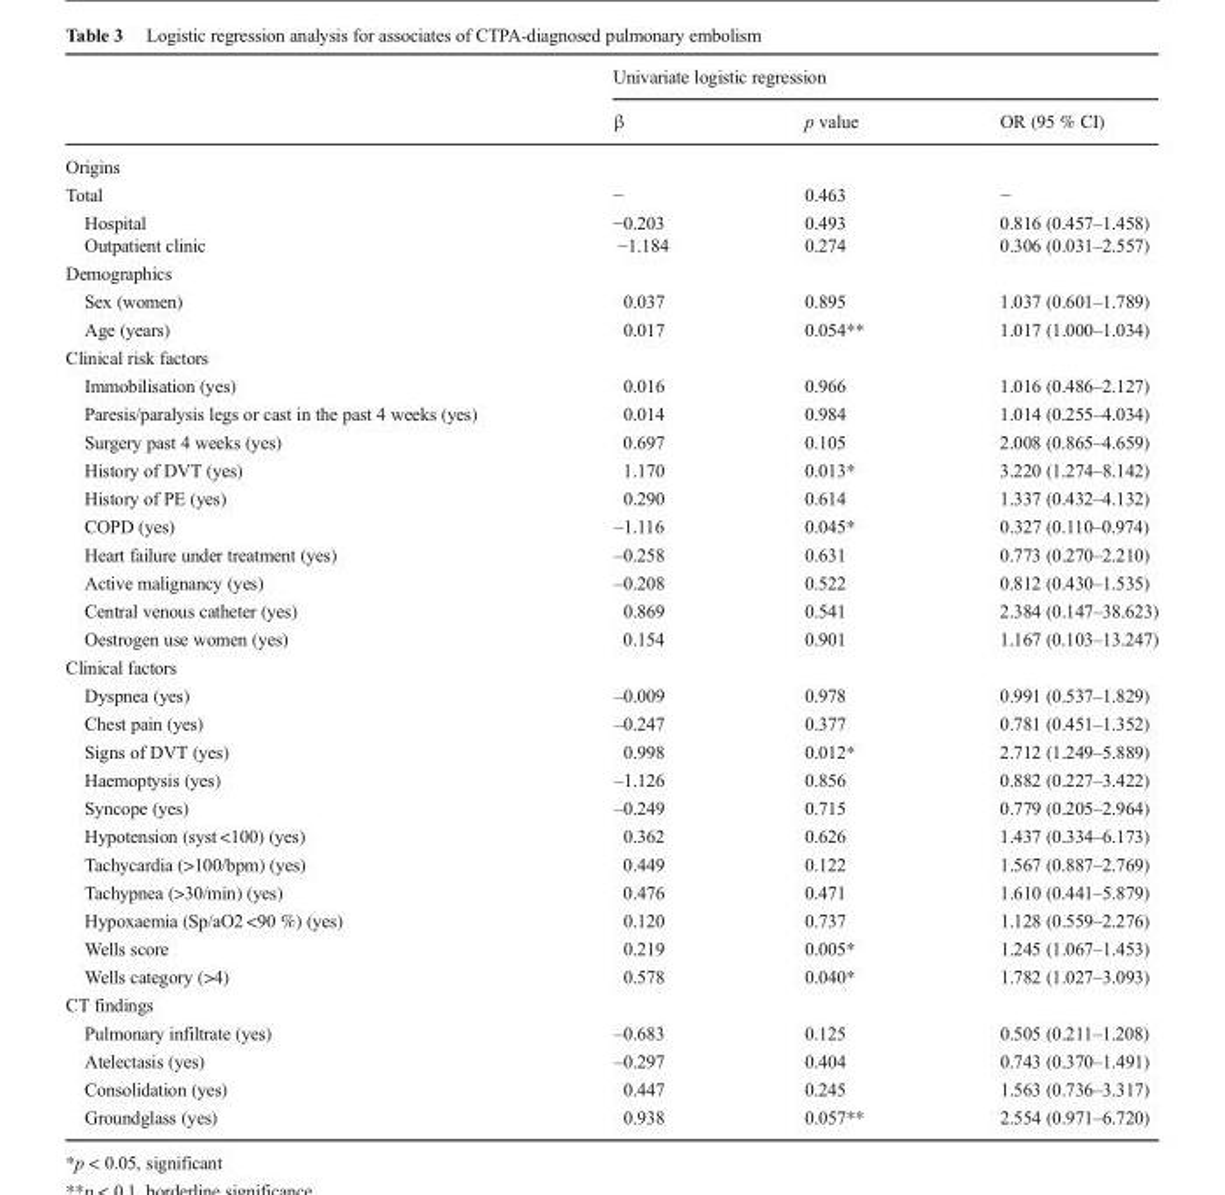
<table><thead><tr><td rowspan="2"></td><td colspan="3">Univariate logistic regression</td></tr><tr><td>β</td><td>p value</td><td>OR (95 % CI)</td></tr></thead><tbody><tr><td colspan="4">Origins</td></tr><tr><td>Total</td><td>−</td><td>0.463</td><td>−</td></tr><tr><td>Hospital Outpatient clinic</td><td>−0.203 −1.184</td><td>0.493 0.274</td><td>0.816 (0.457–1.458) 0.306 (0.031–2.557)</td></tr><tr><td colspan="4">Demographics</td></tr><tr><td>Sex (women)</td><td>0.037</td><td>0.895</td><td>1.037 (0.601–1.789)</td></tr><tr><td>Age (years)</td><td>0.017</td><td>0.054**</td><td>1.017 (1.000–1.034)</td></tr><tr><td colspan="4">Clinical risk factors</td></tr><tr><td>Immobilisation (yes)</td><td>0.016</td><td>0.966</td><td>1.016 (0.486–2.127)</td></tr><tr><td>Paresis/paralysis legs or cast in the past 4 weeks (yes)</td><td>0.014</td><td>0.984</td><td>1.014 (0.255–4.034)</td></tr><tr><td>Surgery past 4 weeks (yes)</td><td>0.697</td><td>0.105</td><td>2.008 (0.865–4.659)</td></tr><tr><td>History of DVT (yes)</td><td>1.170</td><td>0.013*</td><td>3.220 (1.274–8.142)</td></tr><tr><td>History of PE (yes)</td><td>0.290</td><td>0.614</td><td>1.337 (0.432–4.132)</td></tr><tr><td>COPD (yes)</td><td>–1.116</td><td>0.045*</td><td>0.327 (0.110–0.974)</td></tr><tr><td>Heart failure under treatment (yes)</td><td>–0.258</td><td>0.631</td><td>0.773 (0.270–2.210)</td></tr><tr><td>Active malignancy (yes)</td><td>–0.208</td><td>0.522</td><td>0.812 (0.430–1.535)</td></tr><tr><td>Central venous catheter (yes)</td><td>0.869</td><td>0.541</td><td>2.384 (0.147–38.623)</td></tr><tr><td>Oestrogen use women (yes)</td><td>0.154</td><td>0.901</td><td>1.167 (0.103–13.247)</td></tr><tr><td colspan="4">Clinical factors</td></tr><tr><td>Dyspnea (yes)</td><td>–0.009</td><td>0.978</td><td>0.991 (0.537–1.829)</td></tr><tr><td>Chest pain (yes)</td><td>–0.247</td><td>0.377</td><td>0.781 (0.451–1.352)</td></tr><tr><td>Signs of DVT (yes)</td><td>0.998</td><td>0.012*</td><td>2.712 (1.249–5.889)</td></tr><tr><td>Haemoptysis (yes)</td><td>–1.126</td><td>0.856</td><td>0.882 (0.227–3.422)</td></tr><tr><td>Syncope (yes)</td><td>–0.249</td><td>0.715</td><td>0.779 (0.205–2.964)</td></tr><tr><td>Hypotension (syst &lt;100) (yes)</td><td>0.362</td><td>0.626</td><td>1.437 (0.334–6.173)</td></tr><tr><td>Tachycardia (&gt;100/bpm) (yes)</td><td>0.449</td><td>0.122</td><td>1.567 (0.887–2.769)</td></tr><tr><td>Tachypnea (&gt;30/min) (yes)</td><td>0.476</td><td>0.471</td><td>1.610 (0.441–5.879)</td></tr><tr><td>Hypoxaemia (Sp/aO2 &lt;90 %) (yes)</td><td>0.120</td><td>0.737</td><td>1.128 (0.559–2.276)</td></tr><tr><td>Wells score</td><td>0.219</td><td>0.005*</td><td>1.245 (1.067–1.453)</td></tr><tr><td>Wells category (&gt;4)</td><td>0.578</td><td>0.040*</td><td>1.782 (1.027–3.093)</td></tr><tr><td colspan="4">CT findings</td></tr><tr><td>Pulmonary infiltrate (yes)</td><td>–0.683</td><td>0.125</td><td>0.505 (0.211–1.208)</td></tr><tr><td>Atelectasis (yes)</td><td>–0.297</td><td>0.404</td><td>0.743 (0.370–1.491)</td></tr><tr><td>Consolidation (yes)</td><td>0.447</td><td>0.245</td><td>1.563 (0.736–3.317)</td></tr><tr><td>Groundglass (yes)</td><td>0.938</td><td>0.057**</td><td>2.554 (0.971–6.720)</td></tr></tbody></table>